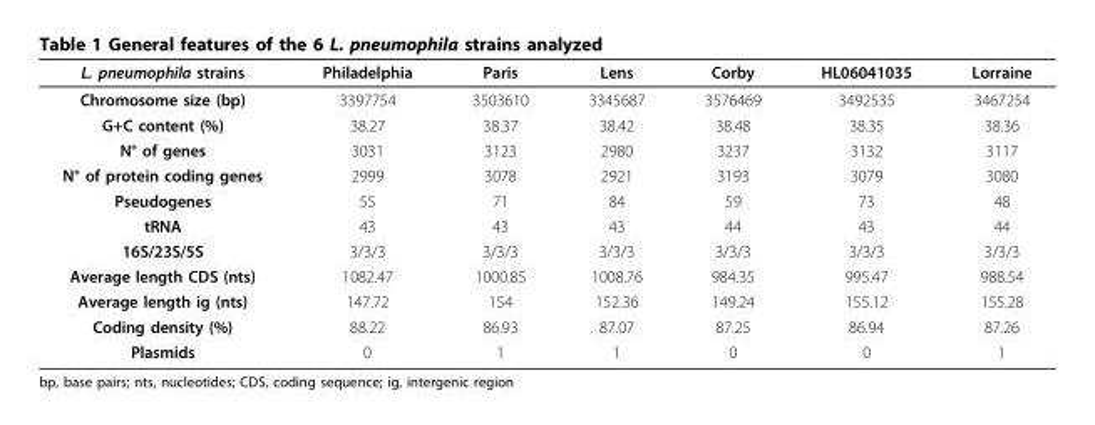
<table><thead><tr><td>L. pneumophila strains</td><td>Philadelphia</td><td>Paris</td><td>Lens</td><td>Corby</td><td>HL06041035</td><td>Lorraine</td></tr></thead><tbody><tr><td>Chromosome size (bp)</td><td>3397754</td><td>3503610</td><td>3345687</td><td>3576469</td><td>3492535</td><td>3467254</td></tr><tr><td>G+C content (%)</td><td>38.27</td><td>38.37</td><td>38.42</td><td>38.48</td><td>38.35</td><td>38.36</td></tr><tr><td>N° of genes</td><td>3031</td><td>3123</td><td>2980</td><td>3237</td><td>3132</td><td>3117</td></tr><tr><td>N° of protein coding genes</td><td>2999</td><td>3078</td><td>2921</td><td>3193</td><td>3079</td><td>3080</td></tr><tr><td>Pseudogenes</td><td>55</td><td>71</td><td>84</td><td>59</td><td>73</td><td>48</td></tr><tr><td>tRNA</td><td>43</td><td>43</td><td>43</td><td>44</td><td>43</td><td>44</td></tr><tr><td>16S/23S/5S</td><td>3/3/3</td><td>3/3/3</td><td>3/3/3</td><td>3/3/3</td><td>3/3/3</td><td>3/3/3</td></tr><tr><td>Average length CDS (nts)</td><td>1082.47</td><td>1000.85</td><td>1008.76</td><td>984.35</td><td>995.47</td><td>988.54</td></tr><tr><td>Average length ig (nts)</td><td>147.72</td><td>154</td><td>152.36</td><td>149.24</td><td>155.12</td><td>155.28</td></tr><tr><td>Coding density (%)</td><td>88.22</td><td>86.93</td><td>87.07</td><td>87.25</td><td>86.94</td><td>87.26</td></tr><tr><td>Plasmids</td><td>0</td><td>1</td><td>1</td><td>0</td><td>0</td><td>1</td></tr></tbody></table>